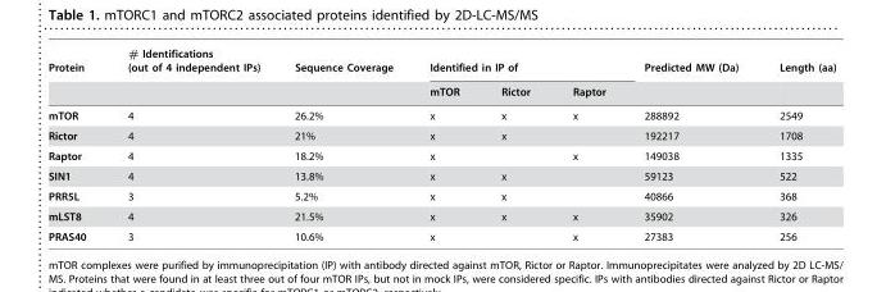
<table><thead><tr><td rowspan="2">Protein</td><td rowspan="2"># Identifications (out of 4 independent IPs)</td><td rowspan="2">Sequence Coverage</td><td colspan="3">Identified in IP of</td><td rowspan="2">Predicted MW (Da)</td><td rowspan="2">Length (aa)</td></tr><tr><td>mTOR</td><td>Rictor</td><td>Raptor</td></tr></thead><tbody><tr><td>mTOR</td><td>4</td><td>26.2%</td><td>x</td><td>x</td><td>x</td><td>288892</td><td>2549</td></tr><tr><td>Rictor</td><td>4</td><td>21%</td><td>x</td><td>x</td><td></td><td>192217</td><td>1708</td></tr><tr><td>Raptor</td><td>4</td><td>18.2%</td><td>x</td><td></td><td>x</td><td>149038</td><td>1335</td></tr><tr><td>SIN1</td><td>4</td><td>13.8%</td><td>x</td><td>x</td><td></td><td>59123</td><td>522</td></tr><tr><td>PRR5L</td><td>3</td><td>5.2%</td><td>x</td><td>x</td><td></td><td>40866</td><td>368</td></tr><tr><td>mLST8</td><td>4</td><td>21.5%</td><td>x</td><td>x</td><td>x</td><td>35902</td><td>326</td></tr><tr><td>PRAS40</td><td>3</td><td>10.6%</td><td>x</td><td></td><td>x</td><td>27383</td><td>256</td></tr></tbody></table>